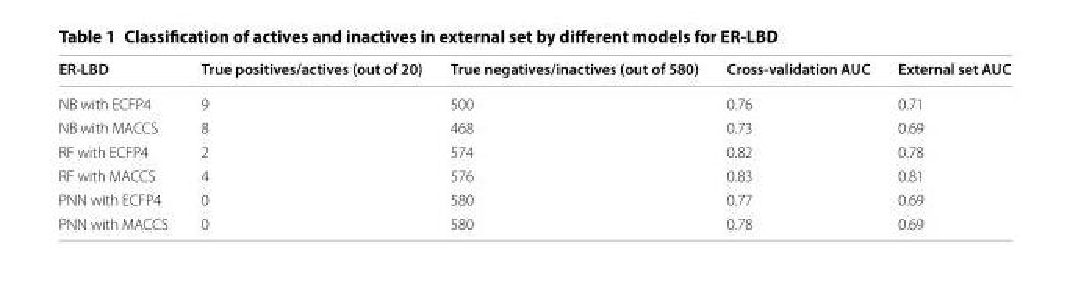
<table><thead><tr><td>ER-LBD</td><td>True positives/actives (out of 20)</td><td>True negatives/inactives (out of 580)</td><td>Cross-validation AUC</td><td>External set AUC</td></tr></thead><tbody><tr><td>NB with ECFP4</td><td>9</td><td>500</td><td>0.76</td><td>0.71</td></tr><tr><td>NB with MACCS</td><td>8</td><td>468</td><td>0.73</td><td>0.69</td></tr><tr><td>RF with ECFP4</td><td>2</td><td>574</td><td>0.82</td><td>0.78</td></tr><tr><td>RF with MACCS</td><td>4</td><td>576</td><td>0.83</td><td>0.81</td></tr><tr><td>PNN with ECFP4</td><td>0</td><td>580</td><td>0.77</td><td>0.69</td></tr><tr><td>PNN with MACCS</td><td>0</td><td>580</td><td>0.78</td><td>0.69</td></tr></tbody></table>